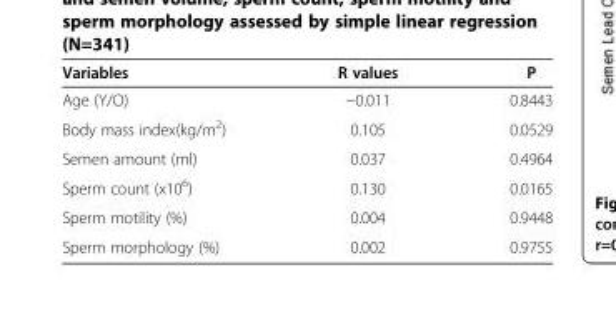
<table><thead><tr><td>Variables</td><td>R values</td><td>P</td></tr></thead><tbody><tr><td>Age (Y/O)</td><td>−0.011</td><td>0.8443</td></tr><tr><td>Body mass index(kg/m<sup>2</sup>)</td><td>0.105</td><td>0.0529</td></tr><tr><td>Semen amount (ml)</td><td>0.037</td><td>0.4964</td></tr><tr><td>Sperm count (x10<sup>6</sup>)</td><td>0.130</td><td>0.0165</td></tr><tr><td>Sperm motility (%)</td><td>0.004</td><td>0.9448</td></tr><tr><td>Sperm morphology (%)</td><td>0.002</td><td>0.9755</td></tr></tbody></table>